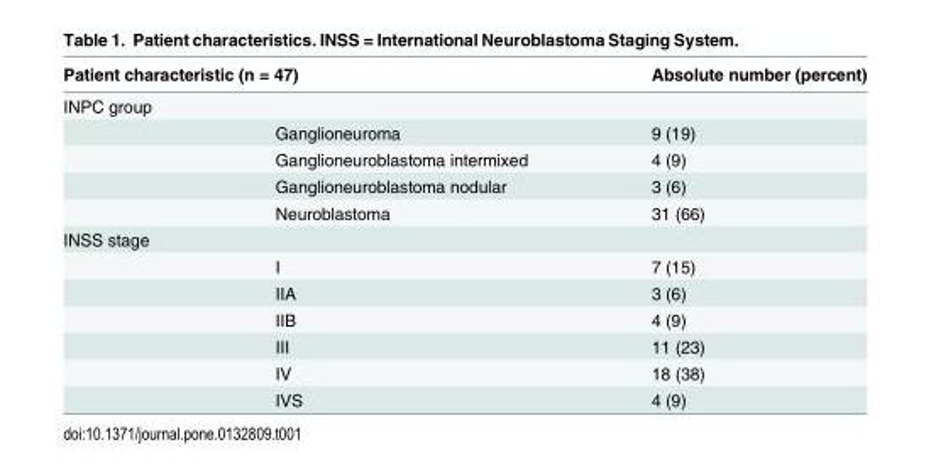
<table><thead><tr><td colspan="2">Patient characteristic (n = 47)</td><td rowspan="2">Absolute number (percent)</td></tr><tr><td>INPC group</td><td></td></tr></thead><tbody><tr><td></td><td>Ganglioneuroma</td><td>9 (19)</td></tr><tr><td></td><td>Ganglioneuroblastoma intermixed</td><td>4 (9)</td></tr><tr><td></td><td>Ganglioneuroblastoma nodular</td><td>3 (6)</td></tr><tr><td></td><td>Neuroblastoma</td><td>31 (66)</td></tr><tr><td colspan="3">INSS stage</td></tr><tr><td></td><td>I</td><td>7 (15)</td></tr><tr><td></td><td>IIA</td><td>3 (6)</td></tr><tr><td></td><td>IIB</td><td>4 (9)</td></tr><tr><td></td><td>III</td><td>11 (23)</td></tr><tr><td></td><td>IV</td><td>18 (38)</td></tr><tr><td></td><td>IVS</td><td>4 (9)</td></tr></tbody></table>